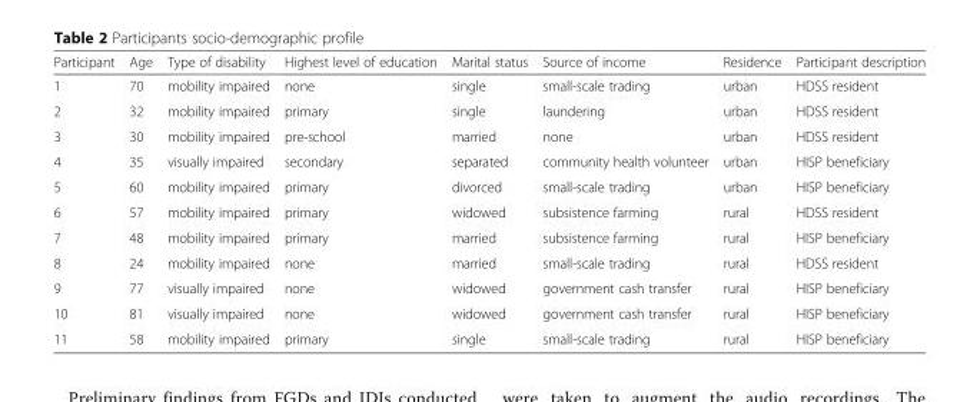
<table><thead><tr><td>Participant</td><td>Age</td><td>Type of disability</td><td>Highest level of education</td><td>Marital status</td><td>Source of income</td><td>Residence</td><td>Participant description</td></tr></thead><tbody><tr><td>1</td><td>70</td><td>mobility impaired</td><td>none</td><td>single</td><td>small-scale trading</td><td>urban</td><td>HDSS resident</td></tr><tr><td>2</td><td>32</td><td>mobility impaired</td><td>primary</td><td>single</td><td>laundering</td><td>urban</td><td>HDSS resident</td></tr><tr><td>3</td><td>30</td><td>mobility impaired</td><td>pre-school</td><td>married</td><td>none</td><td>urban</td><td>HDSS resident</td></tr><tr><td>4</td><td>35</td><td>visually impaired</td><td>secondary</td><td>separated</td><td>community health volunteer</td><td>urban</td><td>HISP beneficiary</td></tr><tr><td>5</td><td>60</td><td>mobility impaired</td><td>primary</td><td>divorced</td><td>small-scale trading</td><td>urban</td><td>HISP beneficiary</td></tr><tr><td>6</td><td>57</td><td>mobility impaired</td><td>primary</td><td>widowed</td><td>subsistence farming</td><td>rural</td><td>HDSS resident</td></tr><tr><td>7</td><td>48</td><td>mobility impaired</td><td>primary</td><td>married</td><td>subsistence farming</td><td>rural</td><td>HISP beneficiary</td></tr><tr><td>8</td><td>24</td><td>mobility impaired</td><td>none</td><td>married</td><td>small-scale trading</td><td>rural</td><td>HDSS resident</td></tr><tr><td>9</td><td>77</td><td>visually impaired</td><td>none</td><td>widowed</td><td>government cash transfer</td><td>rural</td><td>HISP beneficiary</td></tr><tr><td>10</td><td>81</td><td>visually impaired</td><td>none</td><td>widowed</td><td>government cash transfer</td><td>rural</td><td>HISP beneficiary</td></tr><tr><td>11</td><td>58</td><td>mobility impaired</td><td>primary</td><td>single</td><td>small-scale trading</td><td>rural</td><td>HISP beneficiary</td></tr></tbody></table>